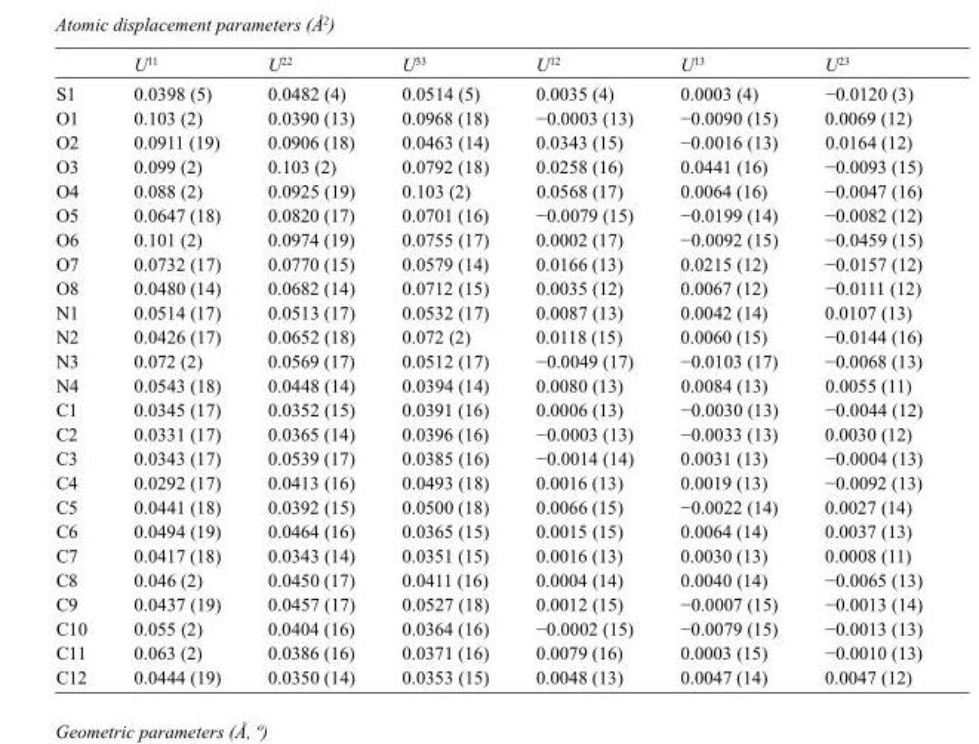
<table><thead><tr><td></td><td>U<sup>11</sup></td><td>U<sup>22</sup></td><td>U<sup>33</sup></td><td>U<sup>12</sup></td><td>U<sup>13</sup></td><td>U<sup>23</sup></td></tr></thead><tbody><tr><td>S1</td><td>0.0398 (5)</td><td>0.0482 (4)</td><td>0.0514 (5)</td><td>0.0035 (4)</td><td>0.0003 (4)</td><td>−0.0120 (3)</td></tr><tr><td>O1</td><td>0.103 (2)</td><td>0.0390 (13)</td><td>0.0968 (18)</td><td>−0.0003 (13)</td><td>−0.0090 (15)</td><td>0.0069 (12)</td></tr><tr><td>O2</td><td>0.0911 (19)</td><td>0.0906 (18)</td><td>0.0463 (14)</td><td>0.0343 (15)</td><td>−0.0016 (13)</td><td>0.0164 (12)</td></tr><tr><td>O3</td><td>0.099 (2)</td><td>0.103 (2)</td><td>0.0792 (18)</td><td>0.0258 (16)</td><td>0.0441 (16)</td><td>−0.0093 (15)</td></tr><tr><td>O4</td><td>0.088 (2)</td><td>0.0925 (19)</td><td>0.103 (2)</td><td>0.0568 (17)</td><td>0.0064 (16)</td><td>−0.0047 (16)</td></tr><tr><td>O5</td><td>0.0647 (18)</td><td>0.0820 (17)</td><td>0.0701 (16)</td><td>−0.0079 (15)</td><td>−0.0199 (14)</td><td>−0.0082 (12)</td></tr><tr><td>O6</td><td>0.101 (2)</td><td>0.0974 (19)</td><td>0.0755 (17)</td><td>0.0002 (17)</td><td>−0.0092 (15)</td><td>−0.0459 (15)</td></tr><tr><td>O7</td><td>0.0732 (17)</td><td>0.0770 (15)</td><td>0.0579 (14)</td><td>0.0166 (13)</td><td>0.0215 (12)</td><td>−0.0157 (12)</td></tr><tr><td>O8</td><td>0.0480 (14)</td><td>0.0682 (14)</td><td>0.0712 (15)</td><td>0.0035 (12)</td><td>0.0067 (12)</td><td>−0.0111 (12)</td></tr><tr><td>N1</td><td>0.0514 (17)</td><td>0.0513 (17)</td><td>0.0532 (17)</td><td>0.0087 (13)</td><td>0.0042 (14)</td><td>0.0107 (13)</td></tr><tr><td>N2</td><td>0.0426 (17)</td><td>0.0652 (18)</td><td>0.072 (2)</td><td>0.0118 (15)</td><td>0.0060 (15)</td><td>−0.0144 (16)</td></tr><tr><td>N3</td><td>0.072 (2)</td><td>0.0569 (17)</td><td>0.0512 (17)</td><td>−0.0049 (17)</td><td>−0.0103 (17)</td><td>−0.0068 (13)</td></tr><tr><td>N4</td><td>0.0543 (18)</td><td>0.0448 (14)</td><td>0.0394 (14)</td><td>0.0080 (13)</td><td>0.0084 (13)</td><td>0.0055 (11)</td></tr><tr><td>C1</td><td>0.0345 (17)</td><td>0.0352 (15)</td><td>0.0391 (16)</td><td>0.0006 (13)</td><td>−0.0030 (13)</td><td>−0.0044 (12)</td></tr><tr><td>C2</td><td>0.0331 (17)</td><td>0.0365 (14)</td><td>0.0396 (16)</td><td>−0.0003 (13)</td><td>−0.0033 (13)</td><td>0.0030 (12)</td></tr><tr><td>C3</td><td>0.0343 (17)</td><td>0.0539 (17)</td><td>0.0385 (16)</td><td>−0.0014 (14)</td><td>0.0031 (13)</td><td>−0.0004 (13)</td></tr><tr><td>C4</td><td>0.0292 (17)</td><td>0.0413 (16)</td><td>0.0493 (18)</td><td>0.0016 (13)</td><td>0.0019 (13)</td><td>−0.0092 (13)</td></tr><tr><td>C5</td><td>0.0441 (18)</td><td>0.0392 (15)</td><td>0.0500 (18)</td><td>0.0066 (15)</td><td>−0.0022 (14)</td><td>0.0027 (14)</td></tr><tr><td>C6</td><td>0.0494 (19)</td><td>0.0464 (16)</td><td>0.0365 (15)</td><td>0.0015 (15)</td><td>0.0064 (14)</td><td>0.0037 (13)</td></tr><tr><td>C7</td><td>0.0417 (18)</td><td>0.0343 (14)</td><td>0.0351 (15)</td><td>0.0016 (13)</td><td>0.0030 (13)</td><td>0.0008 (11)</td></tr><tr><td>C8</td><td>0.046 (2)</td><td>0.0450 (17)</td><td>0.0411 (16)</td><td>0.0004 (14)</td><td>0.0040 (14)</td><td>−0.0065 (13)</td></tr><tr><td>C9</td><td>0.0437 (19)</td><td>0.0457 (17)</td><td>0.0527 (18)</td><td>0.0012 (15)</td><td>−0.0007 (15)</td><td>−0.0013 (14)</td></tr><tr><td>C10</td><td>0.055 (2)</td><td>0.0404 (16)</td><td>0.0364 (16)</td><td>−0.0002 (15)</td><td>−0.0079 (15)</td><td>−0.0013 (13)</td></tr><tr><td>C11</td><td>0.063 (2)</td><td>0.0386 (16)</td><td>0.0371 (16)</td><td>0.0079 (16)</td><td>0.0003 (15)</td><td>−0.0010 (13)</td></tr><tr><td>C12</td><td>0.0444 (19)</td><td>0.0350 (14)</td><td>0.0353 (15)</td><td>0.0048 (13)</td><td>0.0047 (14)</td><td>0.0047 (12)</td></tr></tbody></table>